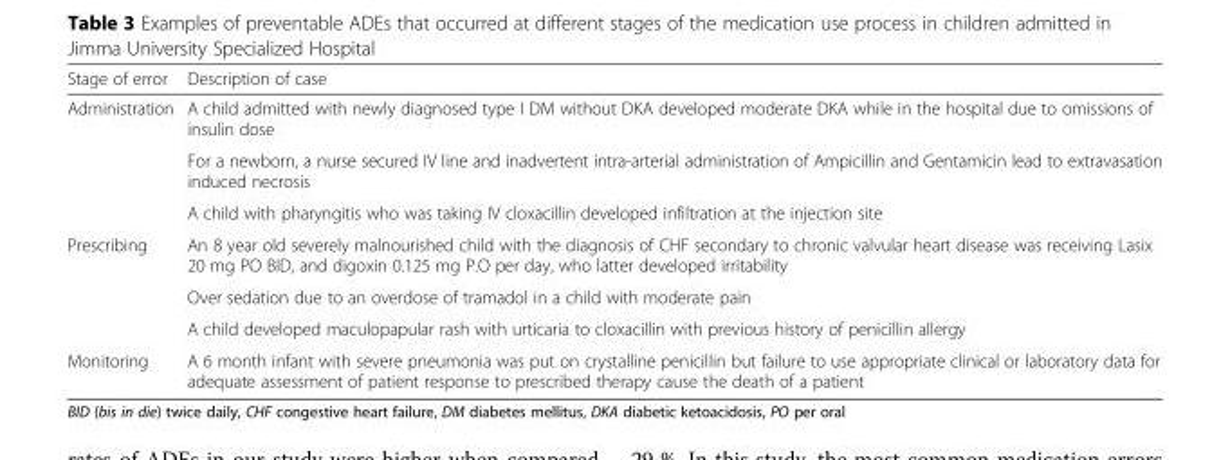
<table><thead><tr><td>Stage of error</td><td>Description of case</td></tr></thead><tbody><tr><td rowspan="3">Administration</td><td>A child admitted with newly diagnosed type I DM without DKA developed moderate DKA while in the hospital due to omissions of insulin dose</td></tr><tr><td>For a newborn, a nurse secured IV line and inadvertent intra-arterial administration of Ampicillin and Gentamicin lead to extravasation induced necrosis</td></tr><tr><td>A child with pharyngitis who was taking IV cloxacillin developed infiltration at the injection site</td></tr><tr><td rowspan="3">Prescribing</td><td>An 8 year old severely malnourished child with the diagnosis of CHF secondary to chronic valvular heart disease was receiving Lasix 20 mg PO BID, and digoxin 0.125 mg P.O per day, who latter developed irritability</td></tr><tr><td>Over sedation due to an overdose of tramadol in a child with moderate pain</td></tr><tr><td>A child developed maculopapular rash with urticaria to cloxacillin with previous history of penicillin allergy</td></tr><tr><td>Monitoring</td><td>A 6 month infant with severe pneumonia was put on crystalline penicillin but failure to use appropriate clinical or laboratory data for adequate assessment of patient response to prescribed therapy cause the death of a patient</td></tr></tbody></table>